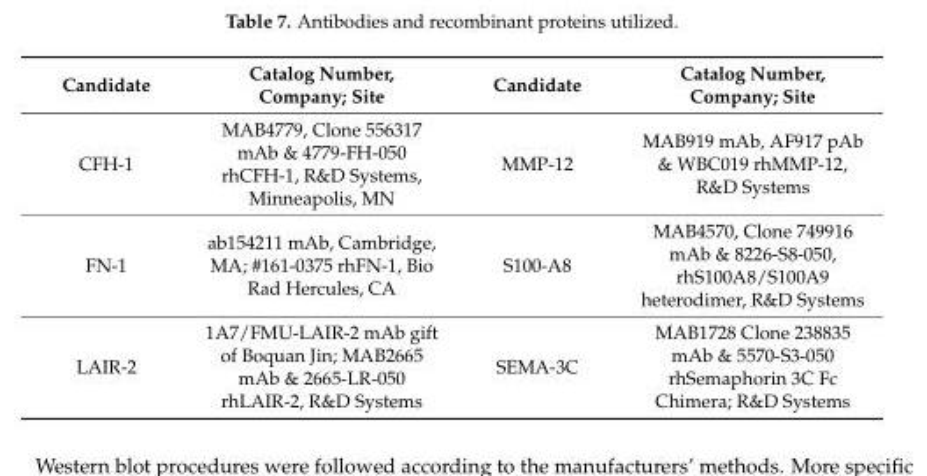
<table><thead><tr><td>Candidate</td><td>Catalog Number, Company; Site</td><td>Candidate</td><td>Catalog Number, Company; Site</td></tr></thead><tbody><tr><td>CFH-1</td><td>MAB4779, Clone 556317 mAb &amp; 4779-FH-050 rhCFH-1, R&amp;D Systems, Minneapolis, MN</td><td>MMP-12</td><td>MAB919 mAb, AF917 pAb &amp; WBC019 rhMMP-12, R&amp;D Systems</td></tr><tr><td>FN-1</td><td>ab154211 mAb, Cambridge, MA; #161-0375 rhFN-1, Bio Rad Hercules, CA</td><td>S100-A8</td><td>MAB4570, Clone 749916 mAb &amp; 8226-S8-050, rhS100A8/S100A9 heterodimer, R&amp;D Systems</td></tr><tr><td>LAIR-2</td><td>1A7/FMU-LAIR-2 mAb gift of Boquan Jin; MAB2665 mAb &amp; 2665-LR-050 rhLAIR-2, R&amp;D Systems</td><td>SEMA-3C</td><td>MAB1728 Clone 238835 mAb &amp; 5570-S3-050 rhSemaphorin 3C Fc Chimera; R&amp;D Systems</td></tr></tbody></table>